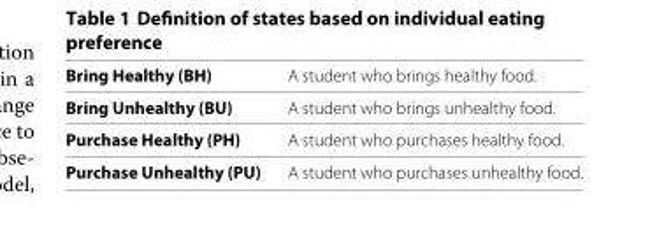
<table><thead><tr><td>Bring Healthy (BH)</td><td>A student who brings healthy food.</td></tr></thead><tbody><tr><td>Bring Unhealthy (BU)</td><td>A student who brings unhealthy food.</td></tr><tr><td>Purchase Healthy (PH)</td><td>A student who purchases healthy food.</td></tr><tr><td>Purchase Unhealthy (PU)</td><td>A student who purchases unhealthy food.</td></tr></tbody></table>